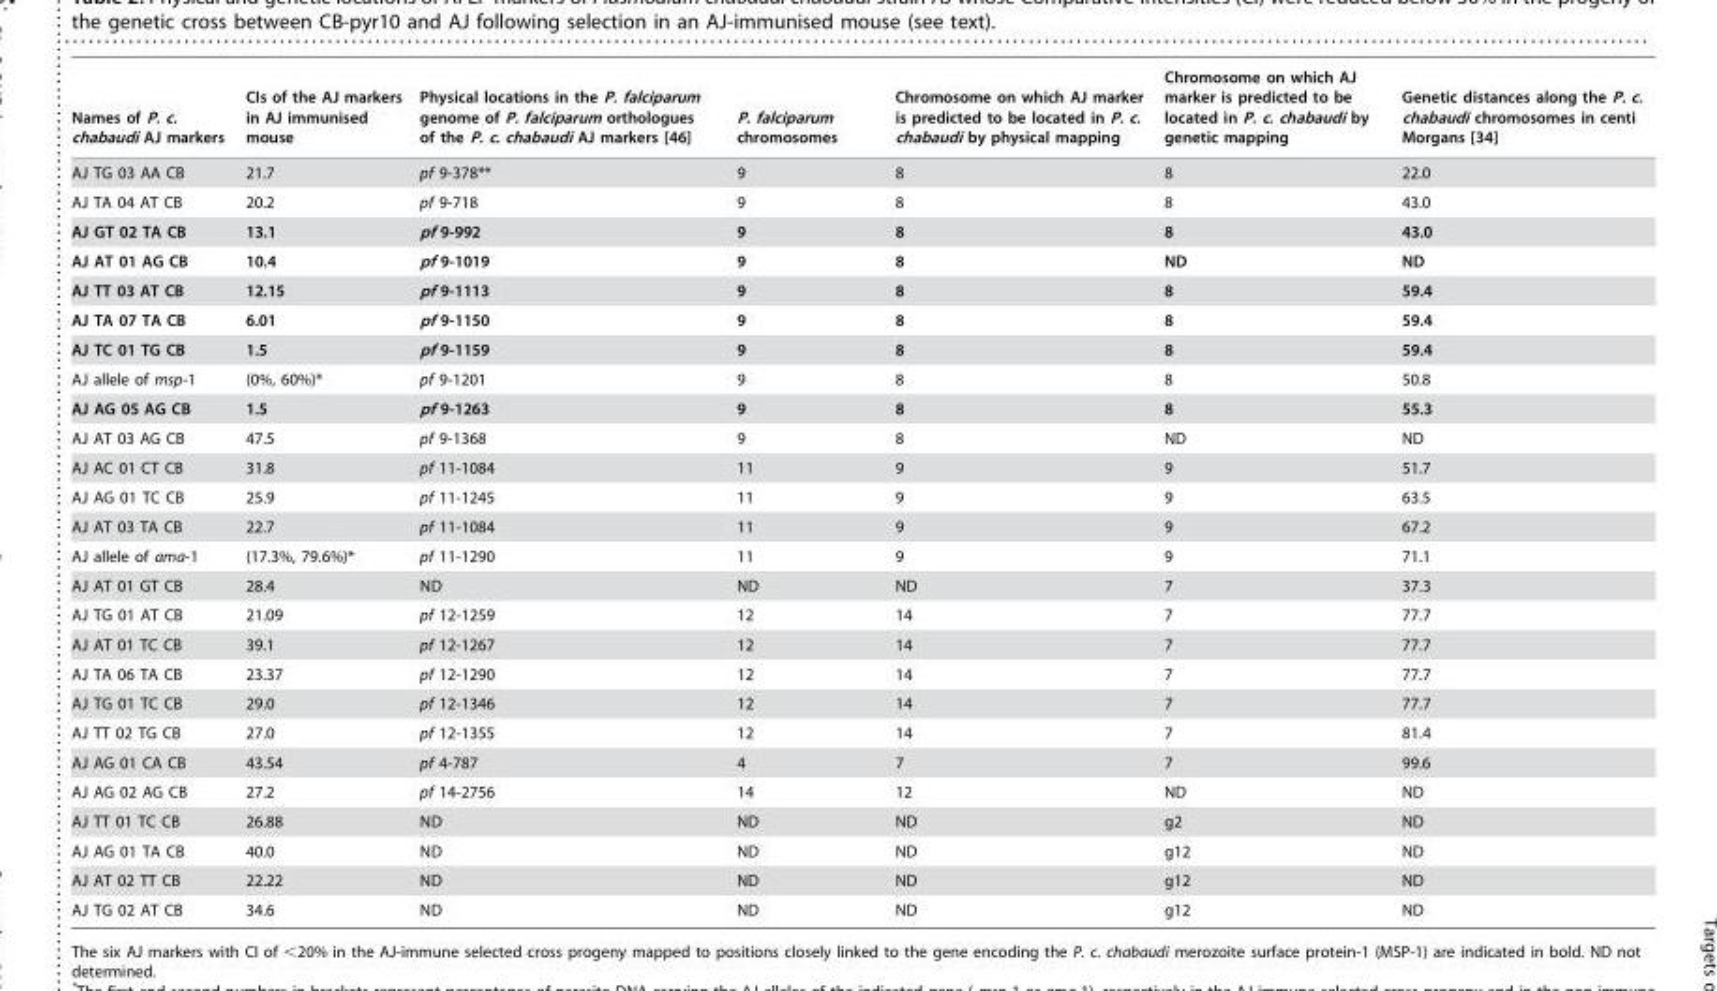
<table><thead><tr><td>Names of P. c. chabaudi AJ markers</td><td>CIs of the AJ markers in AJ immunised mouse</td><td>Physical locations in the P. falciparum genome of P. falciparum orthologues of the P. c. chabaudi AJ markers [46]</td><td>P. falciparum chromosomes</td><td>Chromosome on which AJ marker is predicted to be located in P. c. chabaudi by physical mapping</td><td>Chromosome on which AJ marker is predicted to be located in P. c. chabaudi by genetic mapping</td><td>Genetic distances along the P. c. chabaudi chromosomes in centi Morgans [34]</td></tr></thead><tbody><tr><td>AJ TG 03 AA CB</td><td>21.7</td><td>pf 9-378**</td><td>9</td><td>8</td><td>8</td><td>22.0</td></tr><tr><td>AJ TA 04 AT CB</td><td>20.2</td><td>pf 9-718</td><td>9</td><td>8</td><td>8</td><td>43.0</td></tr><tr><td>AJ GT 02 TA CB</td><td>13.1</td><td>pf 9-992</td><td>9</td><td>8</td><td>8</td><td>43.0</td></tr><tr><td>AJ AT 01 AG CB</td><td>10.4</td><td>pf 9-1019</td><td>9</td><td>8</td><td>ND</td><td>ND</td></tr><tr><td>AJ TT 03 AT CB</td><td>12.15</td><td>pf 9-1113</td><td>9</td><td>8</td><td>8</td><td>59.4</td></tr><tr><td>AJ TA 07 TA CB</td><td>6.01</td><td>pf 9-1150</td><td>9</td><td>8</td><td>8</td><td>59.4</td></tr><tr><td>AJ TC 01 TG CB</td><td>1.5</td><td>pf 9-1159</td><td>9</td><td>8</td><td>8</td><td>59.4</td></tr><tr><td>AJ allele of msp-1</td><td>(0%, 60%)*</td><td>pf 9-1201</td><td>9</td><td>8</td><td>8</td><td>50.8</td></tr><tr><td>AJ AG 05 AG CB</td><td>1.5</td><td>pf 9-1263</td><td>9</td><td>8</td><td>8</td><td>55.3</td></tr><tr><td>AJ AT 03 AG CB</td><td>47.5</td><td>pf 9-1368</td><td>9</td><td>8</td><td>ND</td><td>ND</td></tr><tr><td>AJ AC 01 CT CB</td><td>31.8</td><td>pf 11-1084</td><td>11</td><td>9</td><td>9</td><td>51.7</td></tr><tr><td>AJ AG 01 TC CB</td><td>25.9</td><td>pf 11-1245</td><td>11</td><td>9</td><td>9</td><td>63.5</td></tr><tr><td>AJ AT 03 TA CB</td><td>22.7</td><td>pf 11-1084</td><td>11</td><td>9</td><td>9</td><td>67.2</td></tr><tr><td>AJ allele of ama-1</td><td>(17.3%, 79.6%)*</td><td>pf 11-1290</td><td>11</td><td>9</td><td>9</td><td>71.1</td></tr><tr><td>AJ AT 01 GT CB</td><td>28.4</td><td>ND</td><td>ND</td><td>ND</td><td>7</td><td>37.3</td></tr><tr><td>AJ TG 01 AT CB</td><td>21.09</td><td>pf 12-1259</td><td>12</td><td>14</td><td>7</td><td>77.7</td></tr><tr><td>AJ AT 01 TC CB</td><td>39.1</td><td>pf 12-1267</td><td>12</td><td>14</td><td>7</td><td>77.7</td></tr><tr><td>AJ TA 06 TA CB</td><td>23.37</td><td>pf 12-1290</td><td>12</td><td>14</td><td>7</td><td>77.7</td></tr><tr><td>AJ TG 01 TC CB</td><td>29.0</td><td>pf 12-1346</td><td>12</td><td>14</td><td>7</td><td>77.7</td></tr><tr><td>AJ TT 02 TG CB</td><td>27.0</td><td>pf 12-1355</td><td>12</td><td>14</td><td>7</td><td>81.4</td></tr><tr><td>AJ AG 01 CA CB</td><td>43.54</td><td>pf 4-787</td><td>4</td><td>7</td><td>7</td><td>99.6</td></tr><tr><td>AJ AG 02 AG CB</td><td>27.2</td><td>pf 14-2756</td><td>14</td><td>12</td><td>ND</td><td>ND</td></tr><tr><td>AJ TT 01 TC CB</td><td>26.88</td><td>ND</td><td>ND</td><td>ND</td><td>g2</td><td>ND</td></tr><tr><td>AJ AG 01 TA CB</td><td>40.0</td><td>ND</td><td>ND</td><td>ND</td><td>g12</td><td>ND</td></tr><tr><td>AJ AT 02 TT CB</td><td>22.22</td><td>ND</td><td>ND</td><td>ND</td><td>g12</td><td>ND</td></tr><tr><td>AJ TG 02 AT CB</td><td>34.6</td><td>ND</td><td>ND</td><td>ND</td><td>g12</td><td>ND</td></tr></tbody></table>